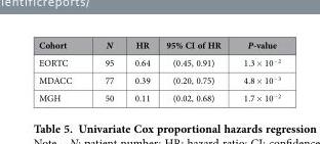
<table><thead><tr><td>Cohort</td><td>N</td><td>HR</td><td>95% CI of HR</td><td>P-value</td></tr></thead><tbody><tr><td>EORTC</td><td>95</td><td>0.64</td><td>(0.45, 0.91)</td><td>1.3 × 10<sup>−2</sup></td></tr><tr><td>MDACC</td><td>77</td><td>0.39</td><td>(0.20, 0.75)</td><td>4.8 × 10<sup>−3</sup></td></tr><tr><td>MGH</td><td>50</td><td>0.11</td><td>(0.02, 0.68)</td><td>1.7 × 10<sup>−2</sup></td></tr></tbody></table>